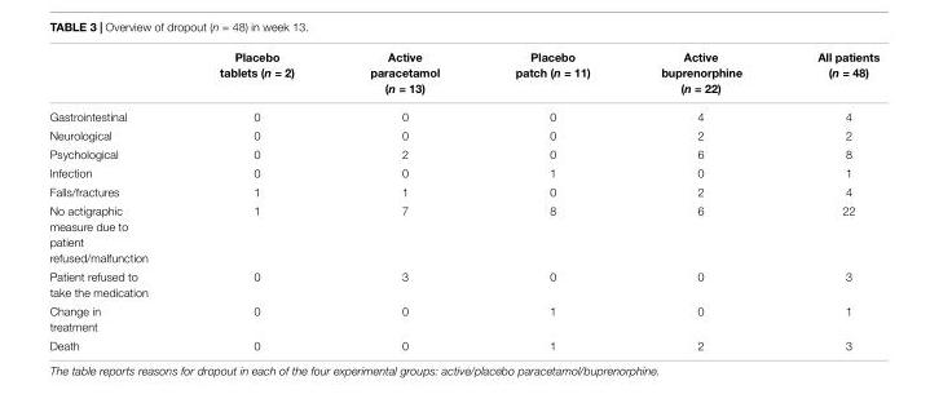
<table><thead><tr><td></td><td>Placebo tablets (n = 2)</td><td>Active paracetamol (n = 13)</td><td>Placebo patch (n = 11)</td><td>Active buprenorphine (n = 22)</td><td>All patients (n = 48)</td></tr></thead><tbody><tr><td>Gastrointestinal</td><td>0</td><td>0</td><td>0</td><td>4</td><td>4</td></tr><tr><td>Neurological</td><td>0</td><td>0</td><td>0</td><td>2</td><td>2</td></tr><tr><td>Psychological</td><td>0</td><td>2</td><td>0</td><td>6</td><td>8</td></tr><tr><td>Infection</td><td>0</td><td>0</td><td>1</td><td>0</td><td>1</td></tr><tr><td>Falls/fractures</td><td>1</td><td>1</td><td>0</td><td>2</td><td>4</td></tr><tr><td>No actigraphic measure due to patient refused/malfunction</td><td>1</td><td>7</td><td>8</td><td>6</td><td>22</td></tr><tr><td>Patient refused to take the medication</td><td>0</td><td>3</td><td>0</td><td>0</td><td>3</td></tr><tr><td>Change in treatment</td><td>0</td><td>0</td><td>1</td><td>0</td><td>1</td></tr><tr><td>Death</td><td>0</td><td>0</td><td>1</td><td>2</td><td>3</td></tr></tbody></table>